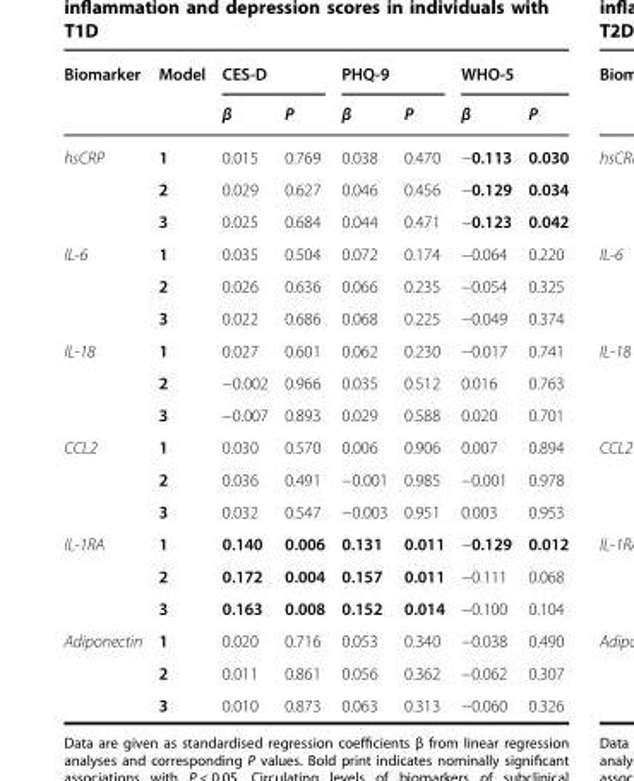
<table><thead><tr><td rowspan="2">Biomarker</td><td rowspan="2">Model</td><td colspan="2">CES-D</td><td colspan="2">PHQ-9</td><td colspan="2">WHO-5</td></tr><tr><td>β</td><td>P</td><td>β</td><td>P</td><td>β</td><td>P</td></tr></thead><tbody><tr><td rowspan="3">hsCRP</td><td>1</td><td>0.015</td><td>0.769</td><td>0.038</td><td>0.470</td><td>−0.113</td><td>0.030</td></tr><tr><td>2</td><td>0.029</td><td>0.627</td><td>0.046</td><td>0.456</td><td>−0.129</td><td>0.034</td></tr><tr><td>3</td><td>0.025</td><td>0.684</td><td>0.044</td><td>0.471</td><td>−0.123</td><td>0.042</td></tr><tr><td rowspan="3">IL-6</td><td>1</td><td>0.035</td><td>0.504</td><td>0.072</td><td>0.174</td><td>−0.064</td><td>0.220</td></tr><tr><td>2</td><td>0.026</td><td>0.636</td><td>0.066</td><td>0.235</td><td>−0.054</td><td>0.325</td></tr><tr><td>3</td><td>0.022</td><td>0.686</td><td>0.068</td><td>0.225</td><td>−0.049</td><td>0.374</td></tr><tr><td rowspan="3">IL-18</td><td>1</td><td>0.027</td><td>0.601</td><td>0.062</td><td>0.230</td><td>−0.017</td><td>0.741</td></tr><tr><td>2</td><td>−0.002</td><td>0.966</td><td>0.035</td><td>0.512</td><td>0.016</td><td>0.763</td></tr><tr><td>3</td><td>−0.007</td><td>0.893</td><td>0.029</td><td>0.588</td><td>0.020</td><td>0.701</td></tr><tr><td rowspan="3">CCL2</td><td>1</td><td>0.030</td><td>0.570</td><td>0.006</td><td>0.906</td><td>0.007</td><td>0.894</td></tr><tr><td>2</td><td>0.036</td><td>0.491</td><td>−0.001</td><td>0.985</td><td>−0.001</td><td>0.978</td></tr><tr><td>3</td><td>0.032</td><td>0.547</td><td>−0.003</td><td>0.951</td><td>0.003</td><td>0.953</td></tr><tr><td rowspan="3">IL-1RA</td><td>1</td><td>0.140</td><td>0.006</td><td>0.131</td><td>0.011</td><td>−0.129</td><td>0.012</td></tr><tr><td>2</td><td>0.172</td><td>0.004</td><td>0.157</td><td>0.011</td><td>−0.111</td><td>0.068</td></tr><tr><td>3</td><td>0.163</td><td>0.008</td><td>0.152</td><td>0.014</td><td>−0.100</td><td>0.104</td></tr><tr><td rowspan="3">Adiponectin</td><td>1</td><td>0.020</td><td>0.716</td><td>0.053</td><td>0.340</td><td>−0.038</td><td>0.490</td></tr><tr><td>2</td><td>0.011</td><td>0.861</td><td>0.056</td><td>0.362</td><td>−0.062</td><td>0.307</td></tr><tr><td>3</td><td>0.010</td><td>0.873</td><td>0.063</td><td>0.313</td><td>−0.060</td><td>0.326</td></tr></tbody></table>